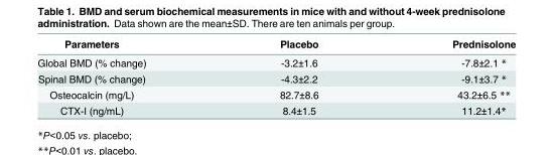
<table><thead><tr><td>Parameters</td><td>Placebo</td><td>Prednisolone</td></tr></thead><tbody><tr><td>Global BMD (% change)</td><td>-3.2±1.6</td><td>-7.8±2.1 *</td></tr><tr><td>Spinal BMD (% change)</td><td>-4.3±2.2</td><td>-9.1±3.7 *</td></tr><tr><td>Osteocalcin (mg/L)</td><td>82.7±8.6</td><td>43.2±6.5 **</td></tr><tr><td>CTX-I (ng/mL)</td><td>8.4±1.5</td><td>11.2±1.4*</td></tr></tbody></table>